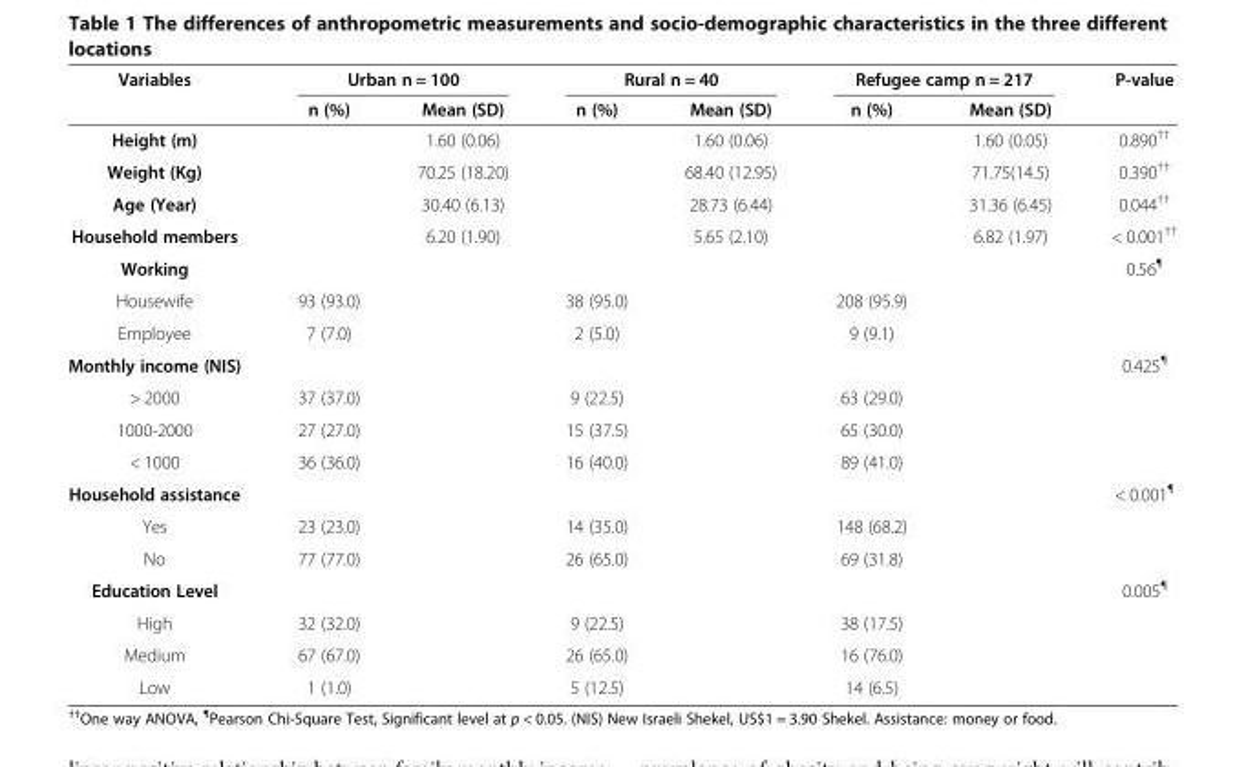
<table><thead><tr><td rowspan="2">Variables</td><td colspan="2">Urban n = 100</td><td colspan="2">Rural n = 40</td><td colspan="2">Refugee camp n = 217</td><td rowspan="2">P-value</td></tr><tr><td>n (%)</td><td>Mean (SD)</td><td>n (%)</td><td>Mean (SD)</td><td>n (%)</td><td>Mean (SD)</td></tr></thead><tbody><tr><td>Height (m)</td><td></td><td>1.60 (0.06)</td><td></td><td>1.60 (0.06)</td><td></td><td>1.60 (0.05)</td><td>0.890<sup>††</sup></td></tr><tr><td>Weight (Kg)</td><td></td><td>70.25 (18.20)</td><td></td><td>68.40 (12.95)</td><td></td><td>71.75(14.5)</td><td>0.390<sup>††</sup></td></tr><tr><td>Age (Year)</td><td></td><td>30.40 (6.13)</td><td></td><td>28.73 (6.44)</td><td></td><td>31.36 (6.45)</td><td>0.044<sup>††</sup></td></tr><tr><td>Household members</td><td></td><td>6.20 (1.90)</td><td></td><td>5.65 (2.10)</td><td></td><td>6.82 (1.97)</td><td>&lt; 0.001<sup>††</sup></td></tr><tr><td>Working</td><td></td><td></td><td></td><td></td><td></td><td></td><td>0.56<sup>¶</sup></td></tr><tr><td>Housewife</td><td>93 (93.0)</td><td></td><td>38 (95.0)</td><td></td><td>208 (95.9)</td><td></td><td></td></tr><tr><td>Employee</td><td>7 (7.0)</td><td></td><td>2 (5.0)</td><td></td><td>9 (9.1)</td><td></td><td></td></tr><tr><td>Monthly income (NIS)</td><td></td><td></td><td></td><td></td><td></td><td></td><td>0.425<sup>¶</sup></td></tr><tr><td>&gt; 2000</td><td>37 (37.0)</td><td></td><td>9 (22.5)</td><td></td><td>63 (29.0)</td><td></td><td></td></tr><tr><td>1000-2000</td><td>27 (27.0)</td><td></td><td>15 (37.5)</td><td></td><td>65 (30.0)</td><td></td><td></td></tr><tr><td>&lt; 1000</td><td>36 (36.0)</td><td></td><td>16 (40.0)</td><td></td><td>89 (41.0)</td><td></td><td></td></tr><tr><td>Household assistance</td><td></td><td></td><td></td><td></td><td></td><td></td><td>&lt; 0.001<sup>¶</sup></td></tr><tr><td>Yes</td><td>23 (23.0)</td><td></td><td>14 (35.0)</td><td></td><td>148 (68.2)</td><td></td><td></td></tr><tr><td>No</td><td>77 (77.0)</td><td></td><td>26 (65.0)</td><td></td><td>69 (31.8)</td><td></td><td></td></tr><tr><td>Education Level</td><td></td><td></td><td></td><td></td><td></td><td></td><td>0.005<sup>¶</sup></td></tr><tr><td>High</td><td>32 (32.0)</td><td></td><td>9 (22.5)</td><td></td><td>38 (17.5)</td><td></td><td></td></tr><tr><td>Medium</td><td>67 (67.0)</td><td></td><td>26 (65.0)</td><td></td><td>16 (76.0)</td><td></td><td></td></tr><tr><td>Low</td><td>1 (1.0)</td><td></td><td>5 (12.5)</td><td></td><td>14 (6.5)</td><td></td><td></td></tr></tbody></table>